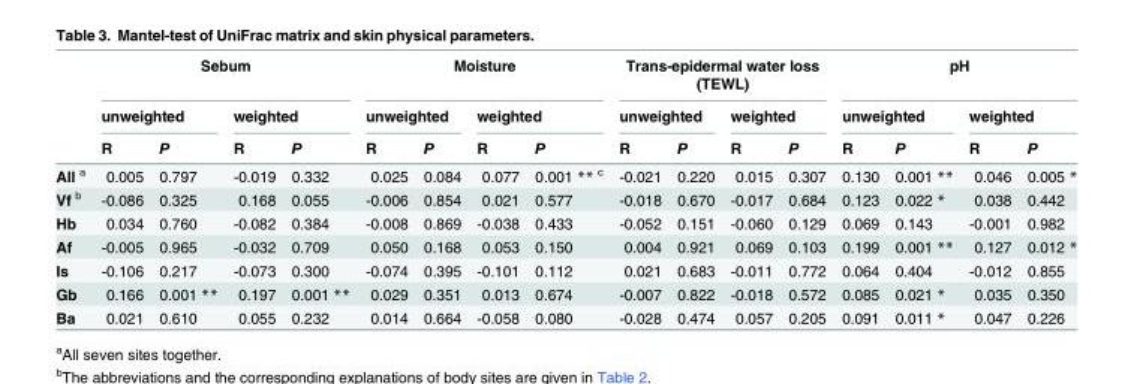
<table><thead><tr><td rowspan="3"></td><td colspan="4">Sebum</td><td colspan="4">Moisture</td><td colspan="4">Trans-epidermal water loss (TEWL)</td><td colspan="4">pH</td></tr><tr><td colspan="2">unweighted</td><td colspan="2">weighted</td><td colspan="2">unweighted</td><td colspan="2">weighted</td><td colspan="2">unweighted</td><td colspan="2">weighted</td><td colspan="2">unweighted</td><td colspan="2">weighted</td></tr><tr><td>R</td><td>P</td><td>R</td><td>P</td><td>R</td><td>P</td><td>R</td><td>P</td><td>R</td><td>P</td><td>R</td><td>P</td><td>R</td><td>P</td><td>R</td><td>P</td></tr></thead><tbody><tr><td>All <sup>a</sup></td><td>0.005</td><td>0.797</td><td>-0.019</td><td>0.332</td><td>0.025</td><td>0.084</td><td>0.077</td><td>0.001 ** <sup>c</sup></td><td>-0.021</td><td>0.220</td><td>0.015</td><td>0.307</td><td>0.130</td><td>0.001 **</td><td>0.046</td><td>0.005 *</td></tr><tr><td>Vf <sup>b</sup></td><td>-0.086</td><td>0.325</td><td>0.168</td><td>0.055</td><td>-0.006</td><td>0.854</td><td>0.021</td><td>0.577</td><td>-0.018</td><td>0.670</td><td>-0.017</td><td>0.684</td><td>0.123</td><td>0.022 *</td><td>0.038</td><td>0.442</td></tr><tr><td>Hb</td><td>0.034</td><td>0.760</td><td>-0.082</td><td>0.384</td><td>-0.008</td><td>0.869</td><td>-0.038</td><td>0.433</td><td>-0.052</td><td>0.151</td><td>-0.060</td><td>0.129</td><td>0.069</td><td>0.143</td><td>-0.001</td><td>0.982</td></tr><tr><td>Af</td><td>-0.005</td><td>0.965</td><td>-0.032</td><td>0.709</td><td>0.050</td><td>0.168</td><td>0.053</td><td>0.150</td><td>0.004</td><td>0.921</td><td>0.069</td><td>0.103</td><td>0.199</td><td>0.001 **</td><td>0.127</td><td>0.012 *</td></tr><tr><td>Is</td><td>-0.106</td><td>0.217</td><td>-0.073</td><td>0.300</td><td>-0.074</td><td>0.395</td><td>-0.101</td><td>0.112</td><td>0.021</td><td>0.683</td><td>-0.011</td><td>0.772</td><td>0.064</td><td>0.404</td><td>-0.012</td><td>0.855</td></tr><tr><td>Gb</td><td>0.166</td><td>0.001 **</td><td>0.197</td><td>0.001 **</td><td>0.029</td><td>0.351</td><td>0.013</td><td>0.674</td><td>-0.007</td><td>0.822</td><td>-0.018</td><td>0.572</td><td>0.085</td><td>0.021 *</td><td>0.035</td><td>0.350</td></tr><tr><td>Ba</td><td>0.021</td><td>0.610</td><td>0.055</td><td>0.232</td><td>0.014</td><td>0.664</td><td>-0.058</td><td>0.080</td><td>-0.028</td><td>0.474</td><td>0.057</td><td>0.205</td><td>0.091</td><td>0.011 *</td><td>0.047</td><td>0.226</td></tr></tbody></table>